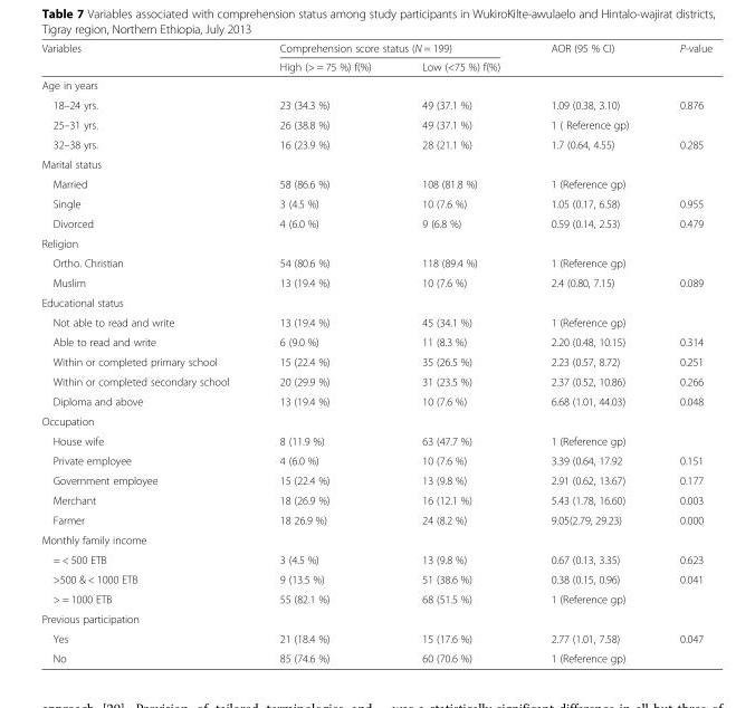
<table><thead><tr><td rowspan="2">Variables</td><td colspan="2">Comprehension score status (N = 199)</td><td rowspan="2">AOR (95 % CI)</td><td rowspan="2">P-value</td></tr><tr><td>High (&gt; = 75 %) f(%)</td><td>Low (&lt;75 %) f(%)</td></tr></thead><tbody><tr><td colspan="5">Age in years</td></tr><tr><td>18–24 yrs.</td><td>23 (34.3 %)</td><td>49 (37.1 %)</td><td>1.09 (0.38, 3.10)</td><td>0.876</td></tr><tr><td>25–31 yrs.</td><td>26 (38.8 %)</td><td>49 (37.1 %)</td><td>1 ( Reference gp)</td><td></td></tr><tr><td>32–38 yrs.</td><td>16 (23.9 %)</td><td>28 (21.1 %)</td><td>1.7 (0.64, 4.55)</td><td>0.285</td></tr><tr><td colspan="5">Marital status</td></tr><tr><td>Married</td><td>58 (86.6 %)</td><td>108 (81.8 %)</td><td>1 (Reference gp)</td><td></td></tr><tr><td>Single</td><td>3 (4.5 %)</td><td>10 (7.6 %)</td><td>1.05 (0.17, 6.58)</td><td>0.955</td></tr><tr><td>Divorced</td><td>4 (6.0 %)</td><td>9 (6.8 %)</td><td>0.59 (0.14, 2.53)</td><td>0.479</td></tr><tr><td colspan="5">Religion</td></tr><tr><td>Ortho. Christian</td><td>54 (80.6 %)</td><td>118 (89.4 %)</td><td>1 (Reference gp)</td><td></td></tr><tr><td>Muslim</td><td>13 (19.4 %)</td><td>10 (7.6 %)</td><td>2.4 (0.80, 7.15)</td><td>0.089</td></tr><tr><td colspan="5">Educational status</td></tr><tr><td>Not able to read and write</td><td>13 (19.4 %)</td><td>45 (34.1 %)</td><td>1 (Reference gp)</td><td></td></tr><tr><td>Able to read and write</td><td>6 (9.0 %)</td><td>11 (8.3 %)</td><td>2.20 (0.48, 10.15)</td><td>0.314</td></tr><tr><td>Within or completed primary school</td><td>15 (22.4 %)</td><td>35 (26.5 %)</td><td>2.23 (0.57, 8.72)</td><td>0.251</td></tr><tr><td>Within or completed secondary school</td><td>20 (29.9 %)</td><td>31 (23.5 %)</td><td>2.37 (0.52, 10.86)</td><td>0.266</td></tr><tr><td>Diploma and above</td><td>13 (19.4 %)</td><td>10 (7.6 %)</td><td>6.68 (1.01, 44.03)</td><td>0.048</td></tr><tr><td colspan="5">Occupation</td></tr><tr><td>House wife</td><td>8 (11.9 %)</td><td>63 (47.7 %)</td><td>1 (Reference gp)</td><td></td></tr><tr><td>Private employee</td><td>4 (6.0 %)</td><td>10 (7.6 %)</td><td>3.39 (0.64, 17.92</td><td>0.151</td></tr><tr><td>Government employee</td><td>15 (22.4 %)</td><td>13 (9.8 %)</td><td>2.91 (0.62, 13.67)</td><td>0.177</td></tr><tr><td>Merchant</td><td>18 (26.9 %)</td><td>16 (12.1 %)</td><td>5.43 (1.78, 16.60)</td><td>0.003</td></tr><tr><td>Farmer</td><td>18 26.9 %)</td><td>24 (8.2 %)</td><td>9.05(2.79, 29.23)</td><td>0.000</td></tr><tr><td colspan="5">Monthly family income</td></tr><tr><td>= &lt; 500 ETB</td><td>3 (4.5 %)</td><td>13 (9.8 %)</td><td>0.67 (0.13, 3.35)</td><td>0.623</td></tr><tr><td>&gt;500 &amp; &lt; 1000 ETB</td><td>9 (13.5 %)</td><td>51 (38.6 %)</td><td>0.38 (0.15, 0.96)</td><td>0.041</td></tr><tr><td>&gt; = 1000 ETB</td><td>55 (82.1 %)</td><td>68 (51.5 %)</td><td>1 (Reference gp)</td><td></td></tr><tr><td colspan="5">Previous participation</td></tr><tr><td>Yes</td><td>21 (18.4 %)</td><td>15 (17.6 %)</td><td>2.77 (1.01, 7.58)</td><td>0.047</td></tr><tr><td>No</td><td>85 (74.6 %)</td><td>60 (70.6 %)</td><td>1 (Reference gp)</td><td></td></tr></tbody></table>